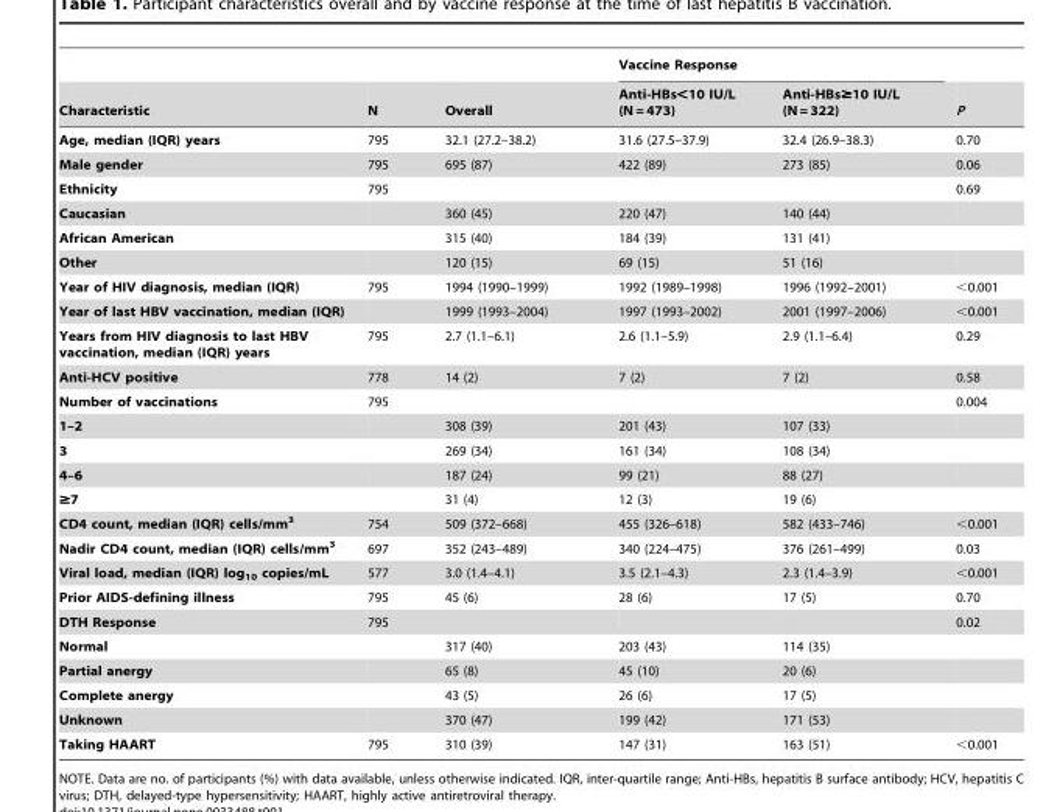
<table><thead><tr><td rowspan="2">Characteristic</td><td rowspan="2">N</td><td rowspan="2">Overall</td><td colspan="2">Vaccine Response</td><td rowspan="2">P</td></tr><tr><td>Anti-HBs&lt;10 IU/L (N = 473)</td><td>Anti-HBs≥10 IU/L (N = 322)</td></tr></thead><tbody><tr><td>Age, median (IQR) years</td><td>795</td><td>32.1 (27.2–38.2)</td><td>31.6 (27.5–37.9)</td><td>32.4 (26.9–38.3)</td><td>0.70</td></tr><tr><td>Male gender</td><td>795</td><td>695 (87)</td><td>422 (89)</td><td>273 (85)</td><td>0.06</td></tr><tr><td>Ethnicity</td><td>795</td><td></td><td></td><td></td><td>0.69</td></tr><tr><td>Caucasian</td><td></td><td>360 (45)</td><td>220 (47)</td><td>140 (44)</td><td></td></tr><tr><td>African American</td><td></td><td>315 (40)</td><td>184 (39)</td><td>131 (41)</td><td></td></tr><tr><td>Other</td><td></td><td>120 (15)</td><td>69 (15)</td><td>51 (16)</td><td></td></tr><tr><td>Year of HIV diagnosis, median (IQR)</td><td>795</td><td>1994 (1990–1999)</td><td>1992 (1989–1998)</td><td>1996 (1992–2001)</td><td>&lt;0.001</td></tr><tr><td>Year of last HBV vaccination, median (IQR)</td><td></td><td>1999 (1993–2004)</td><td>1997 (1993–2002)</td><td>2001 (1997–2006)</td><td>&lt;0.001</td></tr><tr><td>Years from HIV diagnosis to last HBV vaccination, median (IQR) years</td><td>795</td><td>2.7 (1.1–6.1)</td><td>2.6 (1.1–5.9)</td><td>2.9 (1.1–6.4)</td><td>0.29</td></tr><tr><td>Anti-HCV positive</td><td>778</td><td>14 (2)</td><td>7 (2)</td><td>7 (2)</td><td>0.58</td></tr><tr><td>Number of vaccinations</td><td>795</td><td></td><td></td><td></td><td>0.004</td></tr><tr><td>1–2</td><td></td><td>308 (39)</td><td>201 (43)</td><td>107 (33)</td><td></td></tr><tr><td>3</td><td></td><td>269 (34)</td><td>161 (34)</td><td>108 (34)</td><td></td></tr><tr><td>4–6</td><td></td><td>187 (24)</td><td>99 (21)</td><td>88 (27)</td><td></td></tr><tr><td>≥7</td><td></td><td>31 (4)</td><td>12 (3)</td><td>19 (6)</td><td></td></tr><tr><td>CD4 count, median (IQR) cells/mm<sup>3</sup></td><td>754</td><td>509 (372–668)</td><td>455 (326–618)</td><td>582 (433–746)</td><td>&lt;0.001</td></tr><tr><td>Nadir CD4 count, median (IQR) cells/mm<sup>3</sup></td><td>697</td><td>352 (243–489)</td><td>340 (224–475)</td><td>376 (261–499)</td><td>0.03</td></tr><tr><td>Viral load, median (IQR) log<sub>10</sub> copies/mL</td><td>577</td><td>3.0 (1.4–4.1)</td><td>3.5 (2.1–4.3)</td><td>2.3 (1.4–3.9)</td><td>&lt;0.001</td></tr><tr><td>Prior AIDS-defining illness</td><td>795</td><td>45 (6)</td><td>28 (6)</td><td>17 (5)</td><td>0.70</td></tr><tr><td>DTH Response</td><td>795</td><td></td><td></td><td></td><td>0.02</td></tr><tr><td>Normal</td><td></td><td>317 (40)</td><td>203 (43)</td><td>114 (35)</td><td></td></tr><tr><td>Partial anergy</td><td></td><td>65 (8)</td><td>45 (10)</td><td>20 (6)</td><td></td></tr><tr><td>Complete anergy</td><td></td><td>43 (5)</td><td>26 (6)</td><td>17 (5)</td><td></td></tr><tr><td>Unknown</td><td></td><td>370 (47)</td><td>199 (42)</td><td>171 (53)</td><td></td></tr><tr><td>Taking HAART</td><td>795</td><td>310 (39)</td><td>147 (31)</td><td>163 (51)</td><td>&lt;0.001</td></tr></tbody></table>